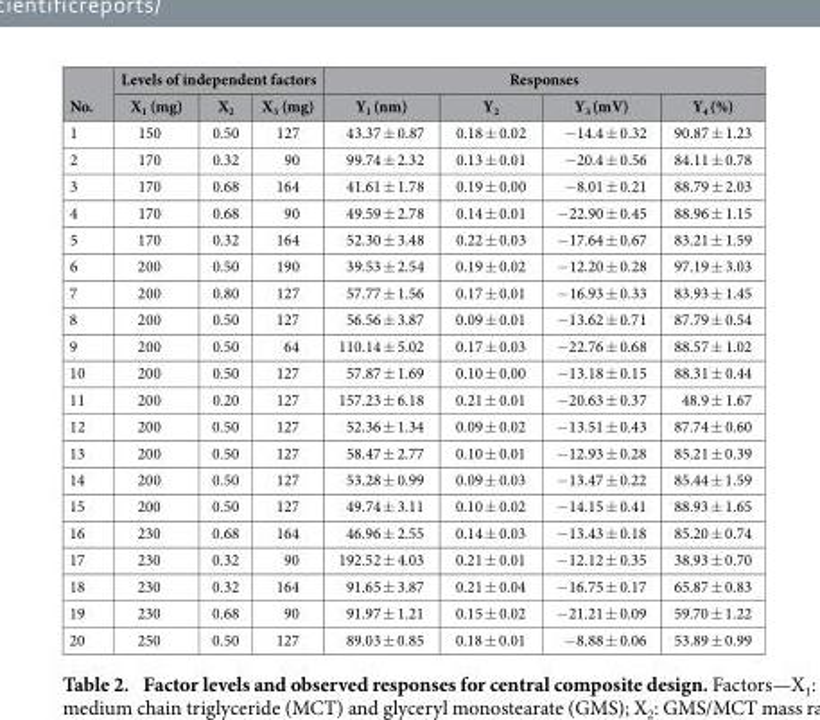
<table><thead><tr><td rowspan="2">No.</td><td colspan="3">Levels of independent factors</td><td colspan="4">Responses</td></tr><tr><td>X<sub>1</sub> (mg)</td><td>X<sub>2</sub></td><td>X<sub>3</sub> (mg)</td><td>Y<sub>1</sub> (nm)</td><td>Y<sub>2</sub></td><td>Y<sub>3</sub> (mV)</td><td>Y<sub>4</sub> (%)</td></tr></thead><tbody><tr><td>1</td><td>150</td><td>0.50</td><td>127</td><td>43.37 ± 0.87</td><td>0.18 ± 0.02</td><td>− 14.4 ± 0.32</td><td>90.87 ± 1.23</td></tr><tr><td>2</td><td>170</td><td>0.32</td><td>90</td><td>99.74 ± 2.32</td><td>0.13 ± 0.01</td><td>− 20.4 ± 0.56</td><td>84.11 ± 0.78</td></tr><tr><td>3</td><td>170</td><td>0.68</td><td>164</td><td>41.61 ± 1.78</td><td>0.19 ± 0.00</td><td>− 8.01 ± 0.21</td><td>88.79 ± 2.03</td></tr><tr><td>4</td><td>170</td><td>0.68</td><td>90</td><td>49.59 ± 2.78</td><td>0.14 ± 0.01</td><td>− 22.90 ± 0.45</td><td>88.96 ± 1.15</td></tr><tr><td>5</td><td>170</td><td>0.32</td><td>164</td><td>52.30 ± 3.48</td><td>0.22 ± 0.03</td><td>− 17.64 ± 0.67</td><td>83.21 ± 1.59</td></tr><tr><td>6</td><td>200</td><td>0.50</td><td>190</td><td>39.53 ± 2.54</td><td>0.19 ± 0.02</td><td>− 12.20 ± 0.28</td><td>97.19 ± 3.03</td></tr><tr><td>7</td><td>200</td><td>0.80</td><td>127</td><td>57.77 ± 1.56</td><td>0.17 ± 0.01</td><td>− 16.93 ± 0.33</td><td>83.93 ± 1.45</td></tr><tr><td>8</td><td>200</td><td>0.50</td><td>127</td><td>56.56 ± 3.87</td><td>0.09 ± 0.01</td><td>− 13.62 ± 0.71</td><td>87.79 ± 0.54</td></tr><tr><td>9</td><td>200</td><td>0.50</td><td>64</td><td>110.14 ± 5.02</td><td>0.17 ± 0.03</td><td>− 22.76 ± 0.68</td><td>88.57 ± 1.02</td></tr><tr><td>10</td><td>200</td><td>0.50</td><td>127</td><td>57.87 ± 1.69</td><td>0.10 ± 0.00</td><td>− 13.18 ± 0.15</td><td>88.31 ± 0.44</td></tr><tr><td>11</td><td>200</td><td>0.20</td><td>127</td><td>157.23 ± 6.18</td><td>0.21 ± 0.01</td><td>− 20.63 ± 0.37</td><td>48.9 ± 1.67</td></tr><tr><td>12</td><td>200</td><td>0.50</td><td>127</td><td>52.36 ± 1.34</td><td>0.09 ± 0.02</td><td>− 13.51 ± 0.43</td><td>87.74 ± 0.60</td></tr><tr><td>13</td><td>200</td><td>0.50</td><td>127</td><td>58.47 ± 2.77</td><td>0.10 ± 0.01</td><td>− 12.93 ± 0.28</td><td>85.21 ± 0.39</td></tr><tr><td>14</td><td>200</td><td>0.50</td><td>127</td><td>53.28 ± 0.99</td><td>0.09 ± 0.03</td><td>− 13.47 ± 0.22</td><td>85.44 ± 1.59</td></tr><tr><td>15</td><td>200</td><td>0.50</td><td>127</td><td>49.74 ± 3.11</td><td>0.10 ± 0.02</td><td>− 14.15 ± 0.41</td><td>88.93 ± 1.65</td></tr><tr><td>16</td><td>230</td><td>0.68</td><td>164</td><td>46.96 ± 2.55</td><td>0.14 ± 0.03</td><td>− 13.43 ± 0.18</td><td>85.20 ± 0.74</td></tr><tr><td>17</td><td>230</td><td>0.32</td><td>90</td><td>192.52 ± 4.03</td><td>0.21 ± 0.01</td><td>− 12.12 ± 0.35</td><td>38.93 ± 0.70</td></tr><tr><td>18</td><td>230</td><td>0.32</td><td>164</td><td>91.65 ± 3.87</td><td>0.21 ± 0.04</td><td>− 16.75 ± 0.17</td><td>65.87 ± 0.83</td></tr><tr><td>19</td><td>230</td><td>0.68</td><td>90</td><td>91.97 ± 1.21</td><td>0.15 ± 0.02</td><td>− 21.21 ± 0.09</td><td>59.70 ± 1.22</td></tr><tr><td>20</td><td>250</td><td>0.50</td><td>127</td><td>89.03 ± 0.85</td><td>0.18 ± 0.01</td><td>− 8.88 ± 0.06</td><td>53.89 ± 0.99</td></tr></tbody></table>